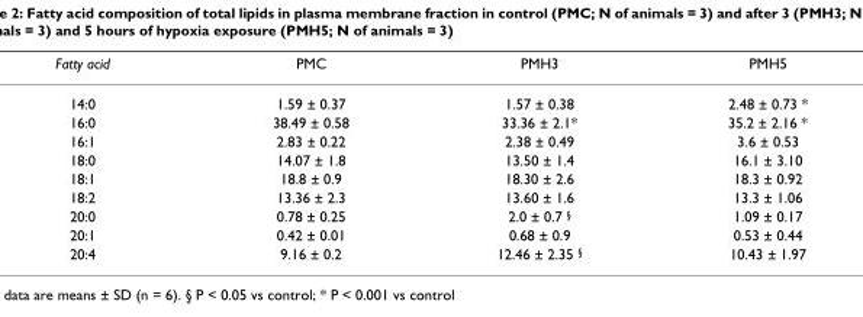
<table><thead><tr><td>Fatty acid</td><td>PMC</td><td>PMH3</td><td>PMH5</td></tr></thead><tbody><tr><td>14:0</td><td>1.59 ± 0.37</td><td>1.57 ± 0.38</td><td>2.48 ± 0.73 *</td></tr><tr><td>16:0</td><td>38.49 ± 0.58</td><td>33.36 ± 2.1*</td><td>35.2 ± 2.16 *</td></tr><tr><td>16:1</td><td>2.83 ± 0.22</td><td>2.38 ± 0.49</td><td>3.6 ± 0.53</td></tr><tr><td>18:0</td><td>14.07 ± 1.8</td><td>13.50 ± 1.4</td><td>16.1 ± 3.10</td></tr><tr><td>18:1</td><td>18.8 ± 0.9</td><td>18.30 ± 2.6</td><td>18.3 ± 0.92</td></tr><tr><td>18:2</td><td>13.36 ± 2.3</td><td>13.60 ± 1.6</td><td>13.3 ± 1.06</td></tr><tr><td>20:0</td><td>0.78 ± 0.25</td><td>2.0 ± 0.7 <sup>§</sup></td><td>1.09 ± 0.17</td></tr><tr><td>20:1</td><td>0.42 ± 0.01</td><td>0.68 ± 0.9</td><td>0.53 ± 0.44</td></tr><tr><td>20:4</td><td>9.16 ± 0.2</td><td>12.46 ± 2.35 <sup>§</sup></td><td>10.43 ± 1.97</td></tr></tbody></table>